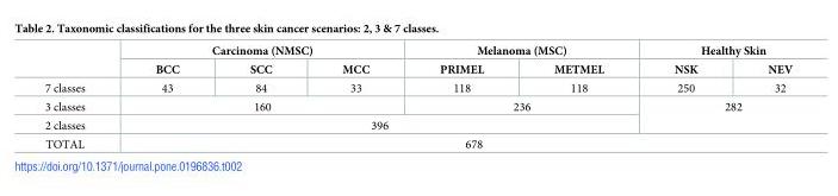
<table><thead><tr><td rowspan="2"></td><td colspan="3">Carcinoma (NMSC)</td><td colspan="2">Melanoma (MSC)</td><td colspan="2">Healthy Skin</td></tr><tr><td>BCC</td><td>SCC</td><td>MCC</td><td>PRIMEL</td><td>METMEL</td><td>NSK</td><td>NEV</td></tr></thead><tbody><tr><td>7 classes</td><td>43</td><td>84</td><td>33</td><td>118</td><td>118</td><td>250</td><td>32</td></tr><tr><td>3 classes</td><td colspan="3">160</td><td colspan="2">236</td><td rowspan="2" colspan="2">282</td></tr><tr><td>2 classes</td><td colspan="5">396</td></tr><tr><td>TOTAL</td><td colspan="7">678</td></tr></tbody></table>